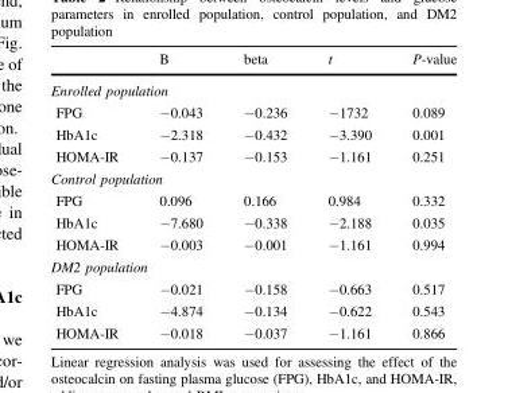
<table><thead><tr><td></td><td>B</td><td>beta</td><td>t</td><td>P-value</td></tr></thead><tbody><tr><td colspan="5">Enrolled population</td></tr><tr><td>FPG</td><td>−0.043</td><td>−0.236</td><td>−1732</td><td>0.089</td></tr><tr><td>HbA1c</td><td>−2.318</td><td>−0.432</td><td>−3.390</td><td>0.001</td></tr><tr><td>HOMA-IR</td><td>−0.137</td><td>−0.153</td><td>−1.161</td><td>0.251</td></tr><tr><td colspan="5">Control population</td></tr><tr><td>FPG</td><td>0.096</td><td>0.166</td><td>0.984</td><td>0.332</td></tr><tr><td>HbA1c</td><td>−7.680</td><td>−0.338</td><td>−2.188</td><td>0.035</td></tr><tr><td>HOMA-IR</td><td>−0.003</td><td>−0.001</td><td>−1.161</td><td>0.994</td></tr><tr><td colspan="5">DM2 population</td></tr><tr><td>FPG</td><td>−0.021</td><td>−0.158</td><td>−0.663</td><td>0.517</td></tr><tr><td>HbA1c</td><td>−4.874</td><td>−0.134</td><td>−0.622</td><td>0.543</td></tr><tr><td>HOMA-IR</td><td>−0.018</td><td>−0.037</td><td>−1.161</td><td>0.866</td></tr></tbody></table>